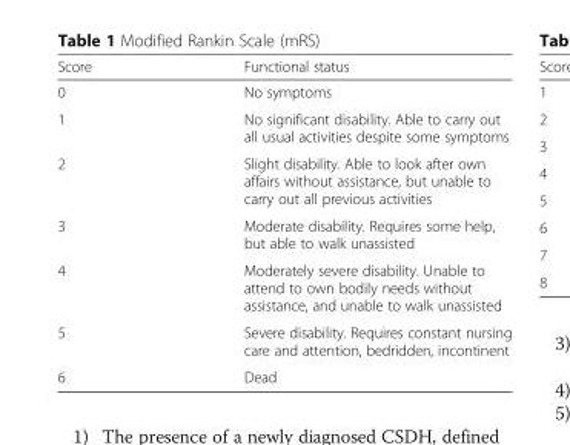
<table><thead><tr><td>Score</td><td>Functional status</td></tr></thead><tbody><tr><td>0</td><td>No symptoms</td></tr><tr><td>1</td><td>No significant disability. Able to carry out all usual activities despite some symptoms</td></tr><tr><td>2</td><td>Slight disability. Able to look after own affairs without assistance, but unable to carry out all previous activities</td></tr><tr><td>3</td><td>Moderate disability. Requires some help, but able to walk unassisted</td></tr><tr><td>4</td><td>Moderately severe disability. Unable to attend to own bodily needs without assistance, and unable to walk unassisted</td></tr><tr><td>5</td><td>Severe disability. Requires constant nursing care and attention, bedridden, incontinent</td></tr><tr><td>6</td><td>Dead</td></tr></tbody></table>